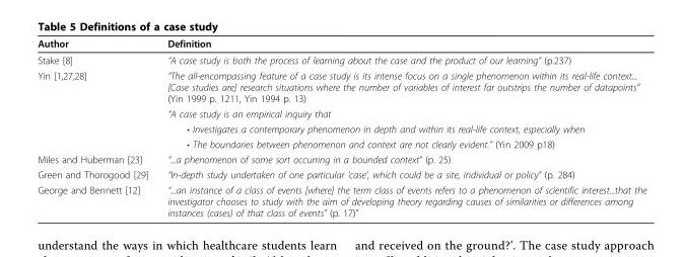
<table><thead><tr><td>Author</td><td>Definition</td></tr></thead><tbody><tr><td>Stake [8]</td><td>“A case study is both the process of learning about the case and the product of our learning” (p.237)</td></tr><tr><td rowspan="4">Yin [1,27,28]</td><td>“The all-encompassing feature of a case study is its intense focus on a single phenomenon within its real-life context... [Case studies are] research situations where the number of variables of interest far outstrips the number of datapoints” (Yin 1999 p. 1211, Yin 1994 p. 13)</td></tr><tr><td>“A case study is an empirical inquiry that</td></tr><tr><td>• Investigates a contemporary phenomenon in depth and within its real-life context, especially when</td></tr><tr><td>• The boundaries between phenomenon and context are not clearly evident.” (Yin 2009 p18)</td></tr><tr><td>Miles and Huberman [23]</td><td>“...a phenomenon of some sort occurring in a bounded context” (p. 25)</td></tr><tr><td>Green and Thorogood [29]</td><td>“In-depth study undertaken of one particular ‘case’, which could be a site, individual or policy” (p. 284)</td></tr><tr><td>George and Bennett [12]</td><td>“...an instance of a class of events [where] the term class of events refers to a phenomenon of scientific interest...that the investigator chooses to study with the aim of developing theory regarding causes of similarities or differences among instances (cases) of that class of events” (p. 17)”</td></tr></tbody></table>